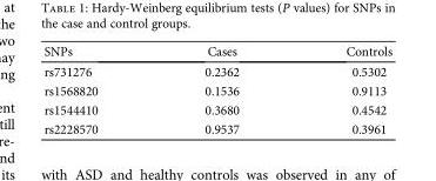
<table><thead><tr><td>SNPs</td><td>Cases</td><td>Controls</td></tr></thead><tbody><tr><td>rs731276</td><td>0.2362</td><td>0.5302</td></tr><tr><td>rs1568820</td><td>0.1536</td><td>0.9113</td></tr><tr><td>rs1544410</td><td>0.3680</td><td>0.4542</td></tr><tr><td>rs2228570</td><td>0.9537</td><td>0.3961</td></tr></tbody></table>